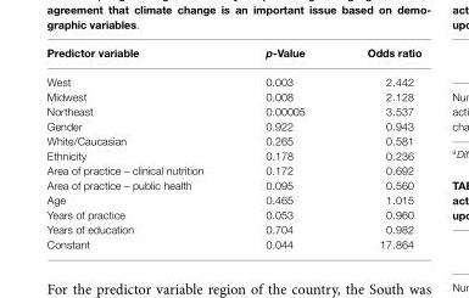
<table><thead><tr><td>Predictor variable</td><td>p-Value</td><td>Odds ratio</td></tr></thead><tbody><tr><td>West</td><td>0.003</td><td>2.442</td></tr><tr><td>Midwest</td><td>0.008</td><td>2.128</td></tr><tr><td>Northeast</td><td>0.00005</td><td>3.537</td></tr><tr><td>Gender</td><td>0.922</td><td>0.943</td></tr><tr><td>White/Caucasian</td><td>0.265</td><td>0.581</td></tr><tr><td>Ethnicity</td><td>0.178</td><td>0.236</td></tr><tr><td>Area of practice – clinical nutrition</td><td>0.172</td><td>0.692</td></tr><tr><td>Area of practice – public health</td><td>0.095</td><td>0.560</td></tr><tr><td>Age</td><td>0.465</td><td>1.015</td></tr><tr><td>Years of practice</td><td>0.053</td><td>0.960</td></tr><tr><td>Years of education</td><td>0.704</td><td>0.982</td></tr><tr><td>Constant</td><td>0.044</td><td>17.864</td></tr></tbody></table>